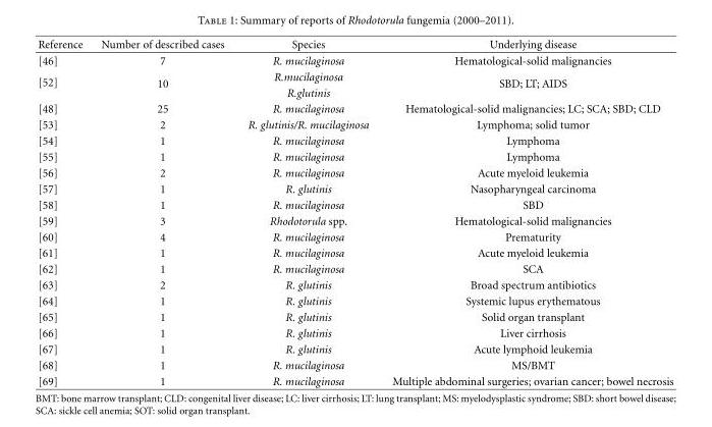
<table><thead><tr><td>Reference</td><td>Number of described cases</td><td>Species</td><td>Underlying disease</td></tr></thead><tbody><tr><td>[46]</td><td>7</td><td>R. mucilaginosa</td><td>Hematological-solid malignancies</td></tr><tr><td rowspan="2">[52]</td><td rowspan="2">10</td><td>R.mucilaginosa</td><td rowspan="2">SBD; LT; AIDS</td></tr><tr><td>R.glutinis</td></tr><tr><td>[48]</td><td>25</td><td>R. mucilaginosa</td><td>Hematological-solid malignancies; LC; SCA; SBD; CLD</td></tr><tr><td>[53]</td><td>2</td><td>R. glutinis/R. mucilaginosa</td><td>Lymphoma; solid tumor</td></tr><tr><td>[54]</td><td>1</td><td>R. mucilaginosa</td><td>Lymphoma</td></tr><tr><td>[55]</td><td>1</td><td>R. mucilaginosa</td><td>Lymphoma</td></tr><tr><td>[56]</td><td>2</td><td>R. mucilaginosa</td><td>Acute myeloid leukemia</td></tr><tr><td>[57]</td><td>1</td><td>R. glutinis</td><td>Nasopharyngeal carcinoma</td></tr><tr><td>[58]</td><td>1</td><td>R. mucilaginosa</td><td>SBD</td></tr><tr><td>[59]</td><td>3</td><td>Rhodotorula spp.</td><td>Hematological-solid malignancies</td></tr><tr><td>[60]</td><td>4</td><td>R. mucilaginosa</td><td>Prematurity</td></tr><tr><td>[61]</td><td>1</td><td>R. mucilaginosa</td><td>Acute myeloid leukemia</td></tr><tr><td>[62]</td><td>1</td><td>R. mucilaginosa</td><td>SCA</td></tr><tr><td>[63]</td><td>2</td><td>R. glutinis</td><td>Broad spectrum antibiotics</td></tr><tr><td>[64]</td><td>1</td><td>R. glutinis</td><td>Systemic lupus erythematous</td></tr><tr><td>[65]</td><td>1</td><td>R. glutinis</td><td>Solid organ transplant</td></tr><tr><td>[66]</td><td>1</td><td>R. glutinis</td><td>Liver cirrhosis</td></tr><tr><td>[67]</td><td>1</td><td>R. glutinis</td><td>Acute lymphoid leukemia</td></tr><tr><td>[68]</td><td>1</td><td>R. mucilaginosa</td><td>MS/BMT</td></tr><tr><td>[69]</td><td>1</td><td>R. mucilaginosa</td><td>Multiple abdominal surgeries; ovarian cancer; bowel necrosis</td></tr></tbody></table>